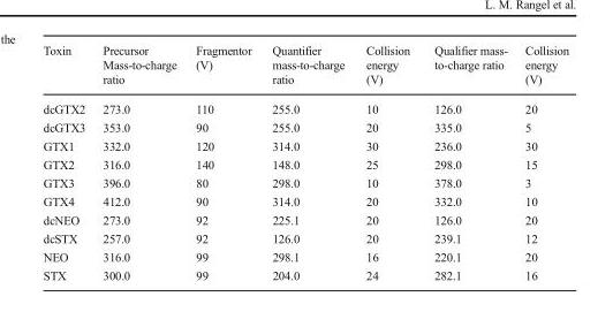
<table><thead><tr><td>Toxin</td><td>Precursor Mass-to-charge ratio</td><td>Fragmentor (V)</td><td>Quantifier mass-to-charge ratio</td><td>Collision energy (V)</td><td>Qualifier mass- to-charge ratio</td><td>Collision energy (V)</td></tr></thead><tbody><tr><td>dcGTX2</td><td>273.0</td><td>110</td><td>255.0</td><td>10</td><td>126.0</td><td>20</td></tr><tr><td>dcGTX3</td><td>353.0</td><td>90</td><td>255.0</td><td>20</td><td>335.0</td><td>5</td></tr><tr><td>GTX1</td><td>332.0</td><td>120</td><td>314.0</td><td>30</td><td>236.0</td><td>30</td></tr><tr><td>GTX2</td><td>316.0</td><td>140</td><td>148.0</td><td>25</td><td>298.0</td><td>15</td></tr><tr><td>GTX3</td><td>396.0</td><td>80</td><td>298.0</td><td>10</td><td>378.0</td><td>3</td></tr><tr><td>GTX4</td><td>412.0</td><td>90</td><td>314.0</td><td>20</td><td>332.0</td><td>10</td></tr><tr><td>dcNEO</td><td>273.0</td><td>92</td><td>225.1</td><td>20</td><td>126.0</td><td>20</td></tr><tr><td>dcSTX</td><td>257.0</td><td>92</td><td>126.0</td><td>20</td><td>239.1</td><td>12</td></tr><tr><td>NEO</td><td>316.0</td><td>99</td><td>298.1</td><td>16</td><td>220.1</td><td>20</td></tr><tr><td>STX</td><td>300.0</td><td>99</td><td>204.0</td><td>24</td><td>282.1</td><td>16</td></tr></tbody></table>